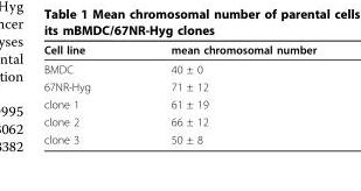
<table><thead><tr><td>Cell line</td><td>mean chromosomal number</td></tr></thead><tbody><tr><td>BMDC</td><td>40 ± 0</td></tr><tr><td>67NR-Hyg</td><td>71 ± 12</td></tr><tr><td>clone 1</td><td>61 ± 19</td></tr><tr><td>clone 2</td><td>66 ± 12</td></tr><tr><td>clone 3</td><td>50 ± 8</td></tr></tbody></table>